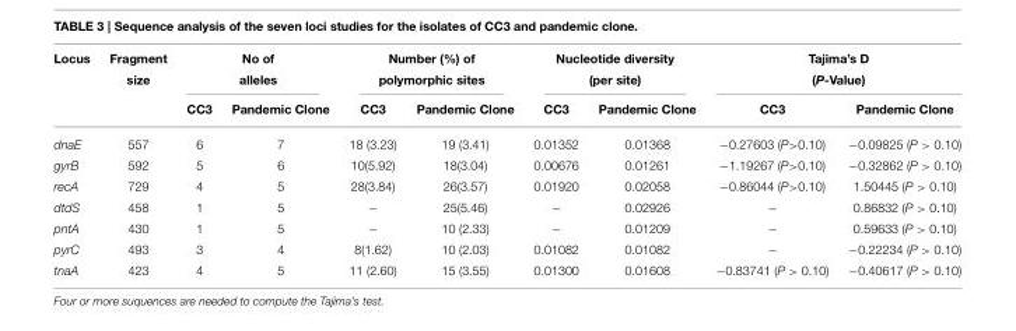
<table><thead><tr><td rowspan="2">Locus</td><td rowspan="2">Fragment size</td><td colspan="2">No of alleles</td><td colspan="2">Number (%) of polymorphic sites</td><td colspan="2">Nucleotide diversity (per site)</td><td colspan="2">Tajima’s D (P-Value)</td></tr><tr><td>CC3</td><td>Pandemic Clone</td><td>CC3</td><td>Pandemic Clone</td><td>CC3</td><td>Pandemic Clone</td><td>CC3</td><td>Pandemic Clone</td></tr></thead><tbody><tr><td>dnaE</td><td>557</td><td>6</td><td>7</td><td>18 (3.23)</td><td>19 (3.41)</td><td>0.01352</td><td>0.01368</td><td>−0.27603 (P&gt;0.10)</td><td>−0.09825 (P &gt; 0.10)</td></tr><tr><td>gyrB</td><td>592</td><td>5</td><td>6</td><td>10(5.92)</td><td>18(3.04)</td><td>0.00676</td><td>0.01261</td><td>−1.19267 (P&gt;0.10)</td><td>−0.32862 (P &gt; 0.10)</td></tr><tr><td>recA</td><td>729</td><td>4</td><td>5</td><td>28(3.84)</td><td>26(3.57)</td><td>0.01920</td><td>0.02058</td><td>−0.86044 (P&gt;0.10)</td><td>1.50445 (P &gt; 0.10)</td></tr><tr><td>dtdS</td><td>458</td><td>1</td><td>5</td><td>−</td><td>25(5.46)</td><td>−</td><td>0.02926</td><td>−</td><td>0.86832 (P &gt; 0.10)</td></tr><tr><td>pntA</td><td>430</td><td>1</td><td>5</td><td>−</td><td>10 (2.33)</td><td>−</td><td>0.01209</td><td>−</td><td>0.59633 (P &gt; 0.10)</td></tr><tr><td>pyrC</td><td>493</td><td>3</td><td>4</td><td>8(1.62)</td><td>10 (2.03)</td><td>0.01082</td><td>0.01082</td><td>−</td><td>−0.22234 (P &gt; 0.10)</td></tr><tr><td>tnaA</td><td>423</td><td>4</td><td>5</td><td>11 (2.60)</td><td>15 (3.55)</td><td>0.01300</td><td>0.01608</td><td>−0.83741 (P &gt; 0.10)</td><td>−0.40617 (P &gt; 0.10)</td></tr></tbody></table>